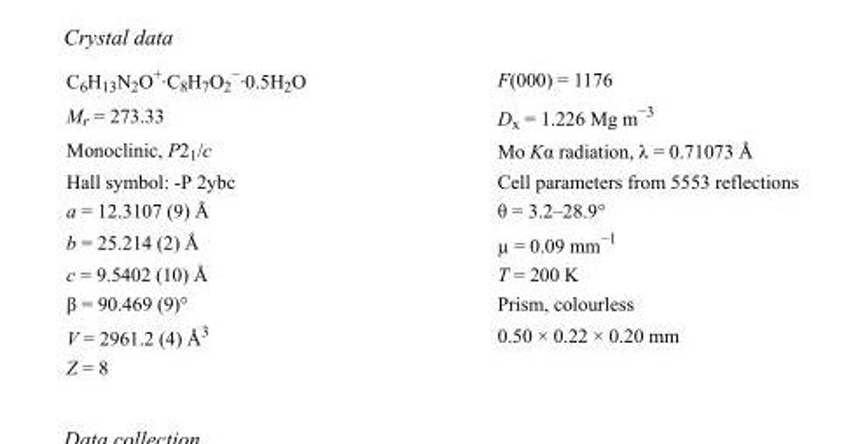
<table><tbody><tr><td>C<sub>6</sub>H<sub>13</sub>N<sub>2</sub>O<sup>+</sup>·C<sub>8</sub>H<sub>7</sub>O<sub>2</sub> <sup>−</sup>·0.5H<sub>2</sub>O</td><td>F(000) = 1176</td></tr><tr><td>M<sub>r</sub> = 273.33</td><td>D<sub>x</sub> = 1.226 Mg m<sup>−3</sup></td></tr><tr><td>Monoclinic, P2<sub>1</sub>/c</td><td>Mo Kα radiation, λ = 0.71073 Å</td></tr><tr><td>Hall symbol: -P 2ybc</td><td>Cell parameters from 5553 reflections</td></tr><tr><td>a = 12.3107 (9) Å</td><td>θ = 3.2–28.9°</td></tr><tr><td>b = 25.214 (2) Å</td><td>µ = 0.09 mm<sup>−1</sup></td></tr><tr><td>c = 9.5402 (10) Å</td><td>T = 200 K</td></tr><tr><td>β = 90.469 (9)°</td><td>Prism, colourless</td></tr><tr><td>V = 2961.2 (4) Å<sup>3</sup></td><td>0.50 × 0.22 × 0.20 mm</td></tr><tr><td>Z = 8</td><td></td></tr></tbody></table>